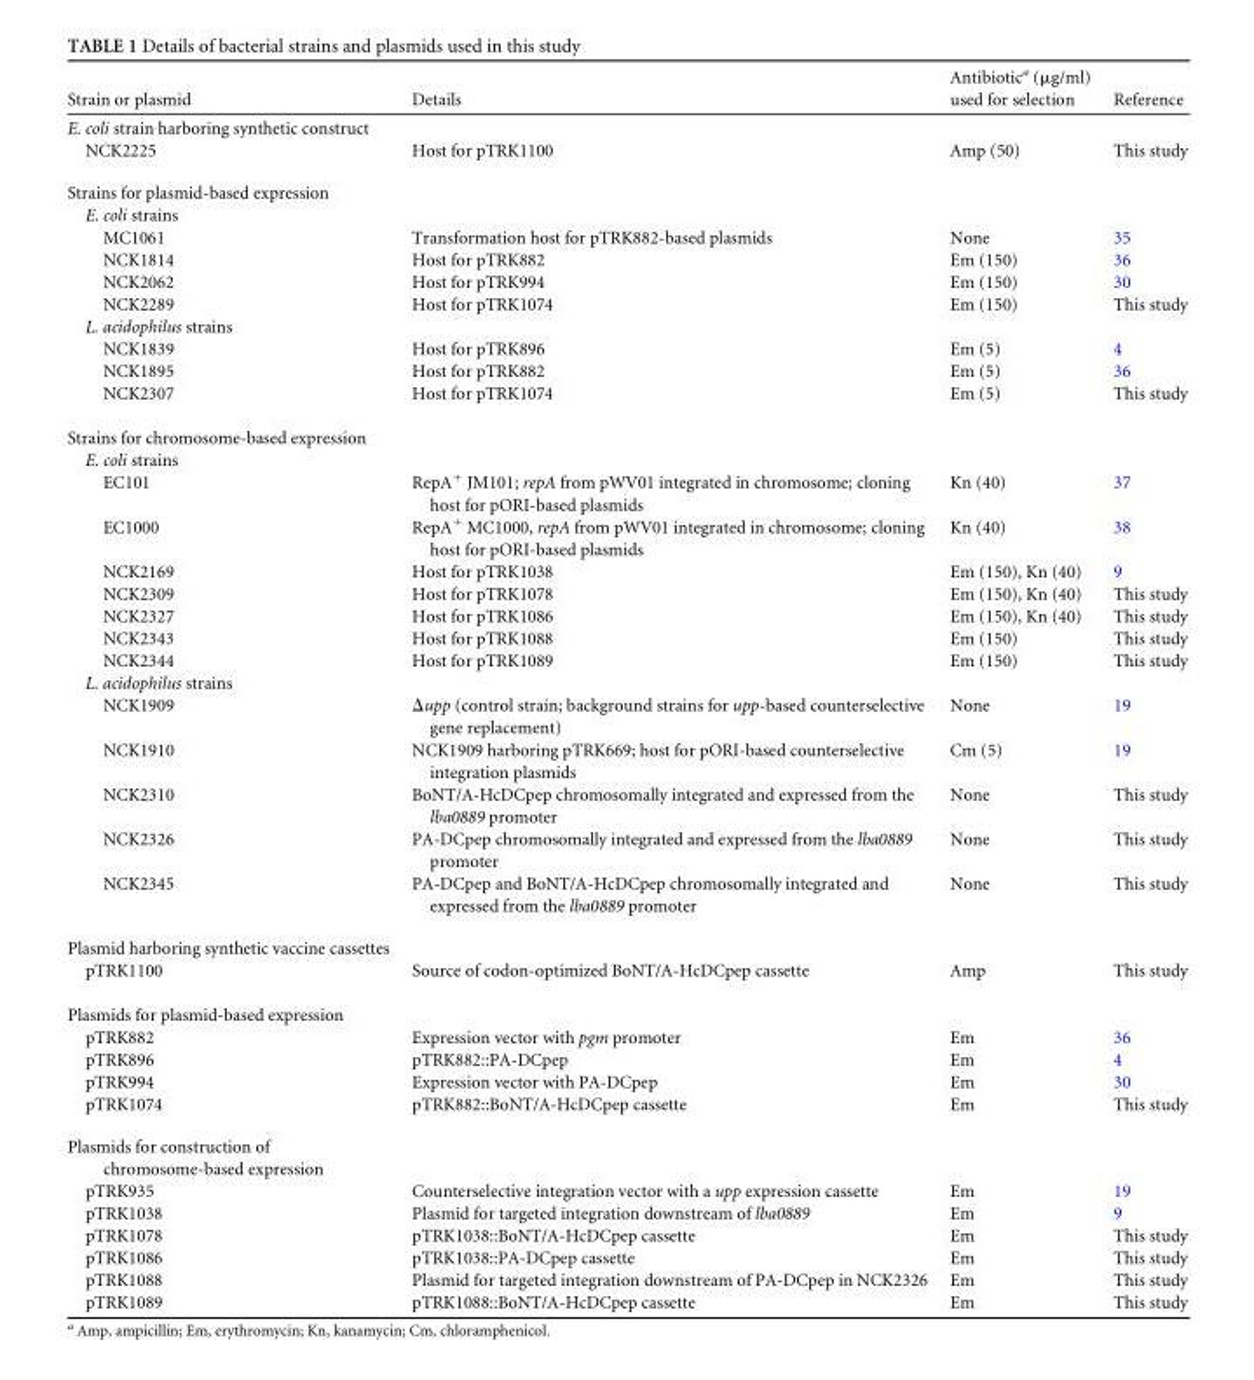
<table><thead><tr><td>Strain or plasmid</td><td>Details</td><td>Antibiotic<sup>a</sup> (μg/ml) used for selection</td><td>Reference</td></tr></thead><tbody><tr><td colspan="4">E. coli strain harboring synthetic construct</td></tr><tr><td>NCK2225</td><td>Host for pTRK1100</td><td>Amp (50)</td><td>This study</td></tr><tr><td colspan="4">Strains for plasmid-based expression</td></tr><tr><td colspan="4">E. coli strains</td></tr><tr><td>MC1061</td><td>Transformation host for pTRK882-based plasmids</td><td>None</td><td>35</td></tr><tr><td>NCK1814</td><td>Host for pTRK882</td><td>Em (150)</td><td>36</td></tr><tr><td>NCK2062</td><td>Host for pTRK994</td><td>Em (150)</td><td>30</td></tr><tr><td>NCK2289</td><td>Host for pTRK1074</td><td>Em (150)</td><td>This study</td></tr><tr><td colspan="4">L. acidophilus strains</td></tr><tr><td>NCK1839</td><td>Host for pTRK896</td><td>Em (5)</td><td>4</td></tr><tr><td>NCK1895</td><td>Host for pTRK882</td><td>Em (5)</td><td>36</td></tr><tr><td>NCK2307</td><td>Host for pTRK1074</td><td>Em (5)</td><td>This study</td></tr><tr><td colspan="4">Strains for chromosome-based expression</td></tr><tr><td colspan="4">E. coli strains</td></tr><tr><td>EC101</td><td>RepA<sup>+</sup> JM101; repA from pWV01 integrated in chromosome; cloning host for pORI-based plasmids</td><td>Kn (40)</td><td>37</td></tr><tr><td>EC1000</td><td>RepA<sup>+</sup> MC1000, repA from pWV01 integrated in chromosome; cloning host for pORI-based plasmids</td><td>Kn (40)</td><td>38</td></tr><tr><td>NCK2169</td><td>Host for pTRK1038</td><td>Em (150), Kn (40)</td><td>9</td></tr><tr><td>NCK2309</td><td>Host for pTRK1078</td><td>Em (150), Kn (40)</td><td>This study</td></tr><tr><td>NCK2327</td><td>Host for pTRK1086</td><td>Em (150), Kn (40)</td><td>This study</td></tr><tr><td>NCK2343</td><td>Host for pTRK1088</td><td>Em (150)</td><td>This study</td></tr><tr><td>NCK2344</td><td>Host for pTRK1089</td><td>Em (150)</td><td>This study</td></tr><tr><td colspan="4">L. acidophilus strains</td></tr><tr><td>NCK1909</td><td>Δupp (control strain; background strains for upp-based counterselective gene replacement)</td><td>None</td><td>19</td></tr><tr><td>NCK1910</td><td>NCK1909 harboring pTRK669; host for pORI-based counterselective integration plasmids</td><td>Cm (5)</td><td>19</td></tr><tr><td>NCK2310</td><td>BoNT/A-HcDCpep chromosomally integrated and expressed from the lba0889 promoter</td><td>None</td><td>This study</td></tr><tr><td>NCK2326</td><td>PA-DCpep chromosomally integrated and expressed from the lba0889 promoter</td><td>None</td><td>This study</td></tr><tr><td>NCK2345</td><td>PA-DCpep and BoNT/A-HcDCpep chromosomally integrated and expressed from the lba0889 promoter</td><td>None</td><td>This study</td></tr><tr><td colspan="4">Plasmid harboring synthetic vaccine cassettes</td></tr><tr><td>pTRK1100</td><td>Source of codon-optimized BoNT/A-HcDCpep cassette</td><td>Amp</td><td>This study</td></tr><tr><td colspan="4">Plasmids for plasmid-based expression</td></tr><tr><td>pTRK882</td><td>Expression vector with pgm promoter</td><td>Em</td><td>36</td></tr><tr><td>pTRK896</td><td>pTRK882::PA-DCpep</td><td>Em</td><td>4</td></tr><tr><td>pTRK994</td><td>Expression vector with PA-DCpep</td><td>Em</td><td>30</td></tr><tr><td>pTRK1074</td><td>pTRK882::BoNT/A-HcDCpep cassette</td><td>Em</td><td>This study</td></tr><tr><td colspan="4">Plasmids for construction of chromosome-based expression</td></tr><tr><td>pTRK935</td><td>Counterselective integration vector with a upp expression cassette</td><td>Em</td><td>19</td></tr><tr><td>pTRK1038</td><td>Plasmid for targeted integration downstream of lba0889</td><td>Em</td><td>9</td></tr><tr><td>pTRK1078</td><td>pTRK1038::BoNT/A-HcDCpep cassette</td><td>Em</td><td>This study</td></tr><tr><td>pTRK1086</td><td>pTRK1038::PA-DCpep cassette</td><td>Em</td><td>This study</td></tr><tr><td>pTRK1088</td><td>Plasmid for targeted integration downstream of PA-DCpep in NCK2326</td><td>Em</td><td>This study</td></tr><tr><td>pTRK1089</td><td>pTRK1088::BoNT/A-HcDCpep cassette</td><td>Em</td><td>This study</td></tr></tbody></table>